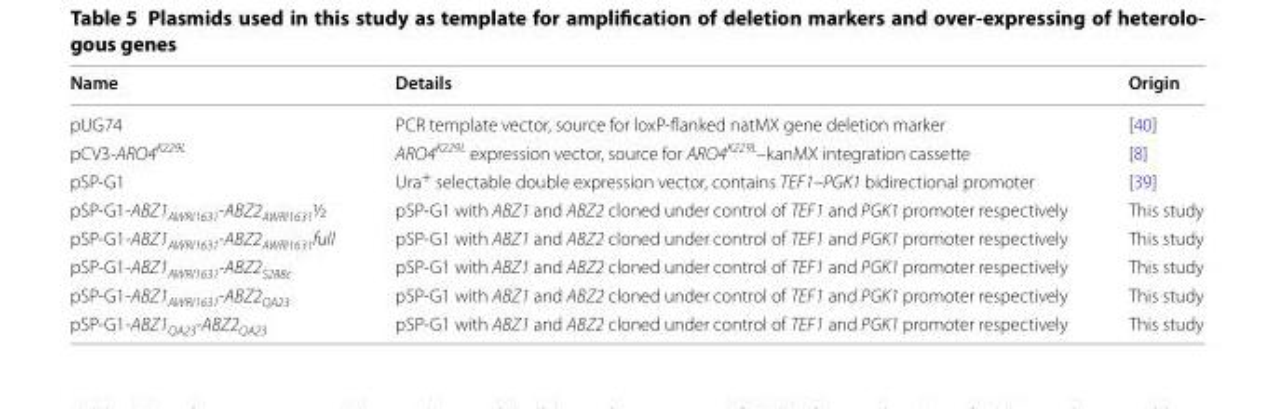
<table><thead><tr><td>Name</td><td>Details</td><td>Origin</td></tr></thead><tbody><tr><td>pUG74</td><td>PCR template vector, source for loxP-flanked natMX gene deletion marker</td><td>[40]</td></tr><tr><td>pCV3-ARO4<sup>K229L</sup></td><td>ARO4<sup>K229L</sup> expression vector, source for ARO4<sup>K229L</sup>–kanMX integration cassette</td><td>[8]</td></tr><tr><td>pSP-G1</td><td>Ura<sup>+</sup> selectable double expression vector, contains TEF1–PGK1 bidirectional promoter</td><td>[39]</td></tr><tr><td>pSP-G1-ABZ1<sub>AWRI1631</sub>-ABZ2<sub>AWRI1631</sub>½</td><td>pSP-G1 with ABZ1 and ABZ2 cloned under control of TEF1 and PGK1 promoter respectively</td><td>This study</td></tr><tr><td>pSP-G1-ABZ1<sub>AWRI1631</sub>-ABZ2<sub>AWRI1631</sub>full</td><td>pSP-G1 with ABZ1 and ABZ2 cloned under control of TEF1 and PGK1 promoter respectively</td><td>This study</td></tr><tr><td>pSP-G1-ABZ1<sub>AWRI1631</sub>-ABZ2<sub>S288c</sub></td><td>pSP-G1 with ABZ1 and ABZ2 cloned under control of TEF1 and PGK1 promoter respectively</td><td>This study</td></tr><tr><td>pSP-G1-ABZ1<sub>AWRI1631</sub>-ABZ2<sub>QA23</sub></td><td>pSP-G1 with ABZ1 and ABZ2 cloned under control of TEF1 and PGK1 promoter respectively</td><td>This study</td></tr><tr><td>pSP-G1-ABZ1<sub>QA23</sub>-ABZ2<sub>QA23</sub></td><td>pSP-G1 with ABZ1 and ABZ2 cloned under control of TEF1 and PGK1 promoter respectively</td><td>This study</td></tr></tbody></table>